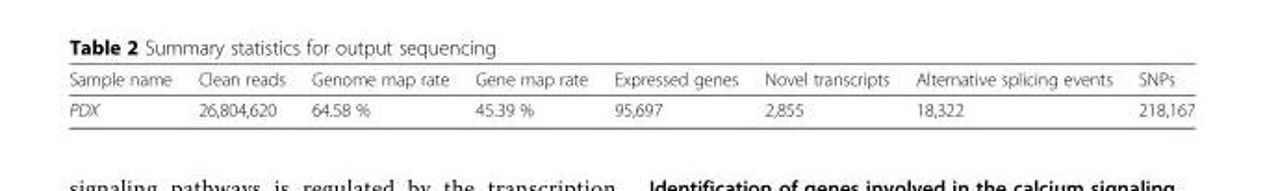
<table><thead><tr><td>Sample name</td><td>Clean reads</td><td>Genome map rate</td><td>Gene map rate</td><td>Expressed genes</td><td>Novel transcripts</td><td>Alternative splicing events</td><td>SNPs</td></tr></thead><tbody><tr><td>PDX</td><td>26,804,620</td><td>64.58 %</td><td>45.39 %</td><td>95,697</td><td>2,855</td><td>18,322</td><td>218,167</td></tr></tbody></table>